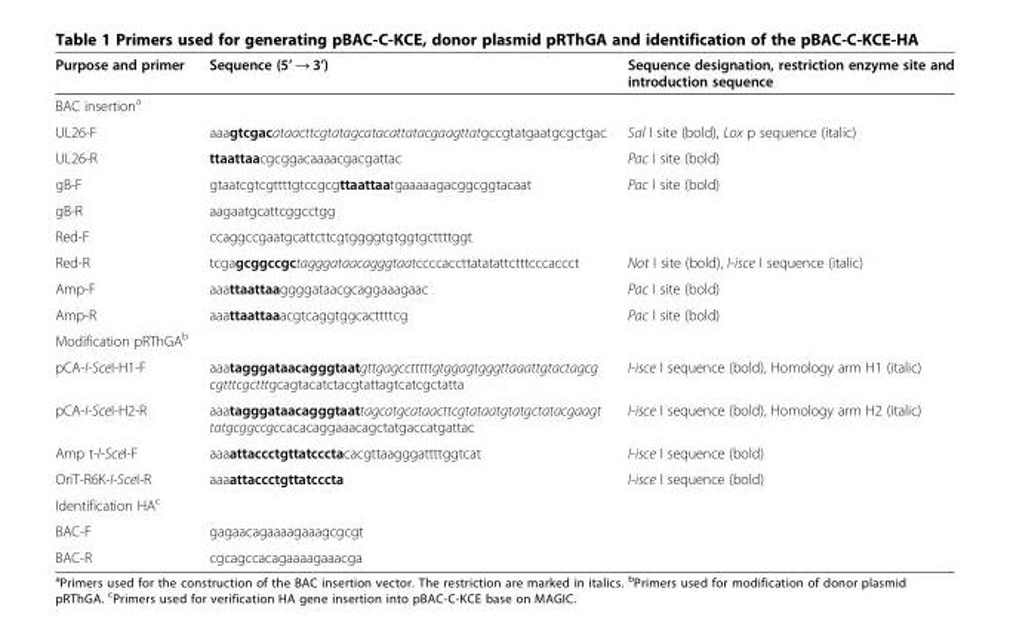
<table><thead><tr><td>Purpose and primer</td><td>Sequence (5’ → 3’)</td><td>Sequence designation, restriction enzyme site and introduction sequence</td></tr></thead><tbody><tr><td colspan="3">BAC insertion<sup>a</sup></td></tr><tr><td>UL26-F</td><td>aaagtcgacataacttcgtatagcatacattatacgaagttatgccgtatgaatgcgctgac</td><td>Sal I site (bold), Lox p sequence (italic)</td></tr><tr><td>UL26-R</td><td>ttaattaacgcggacaaaacgacgattac</td><td>Pac I site (bold)</td></tr><tr><td>gB-F</td><td>gtaatcgtcgttttgtccgcgttaattaatgaaaaagacggcggtacaat</td><td>Pac I site (bold)</td></tr><tr><td>gB-R</td><td>aagaatgcattcggcctgg</td><td></td></tr><tr><td>Red-F</td><td>ccaggccgaatgcattcttcgtggggtgtggtgcttttggt</td><td></td></tr><tr><td>Red-R</td><td>tcgagcggccgctagggataacagggtaatccccaccttatatattctttcccaccct</td><td>Not I site (bold), I-isce I sequence (italic)</td></tr><tr><td>Amp-F</td><td>aaattaattaaggggataacgcaggaaagaac</td><td>Pac I site (bold)</td></tr><tr><td>Amp-R</td><td>aaattaattaaacgtcaggtggcacttttcg</td><td>Pac I site (bold)</td></tr><tr><td colspan="3">Modification pRThGA<sup>b</sup></td></tr><tr><td>pCA-I-SceI-H1-F</td><td>aaatagggataacagggtaatgttgagcctttttgtggagtgggttaaattgtactagcg cgtttcgctttgcagtacatctacgtattagtcatcgctatta</td><td>I-isce I sequence (bold), Homology arm H1 (italic)</td></tr><tr><td>pCA-I-SceI-H2-R</td><td>aaatagggataacagggtaattagcatgcataacttcgtataatgtatgctatacgaagt tatgcggccgccacacaggaaacagctatgaccatgattac</td><td>I-isce I sequence (bold), Homology arm H2 (italic)</td></tr><tr><td>Amp t-I-SceI-F</td><td>aaaattaccctgttatccctacacgttaagggattttggtcat</td><td>I-isce I sequence (bold)</td></tr><tr><td>OriT-R6K-I-SceI-R</td><td>aaaattaccctgttatcccta</td><td>I-isce I sequence (bold)</td></tr><tr><td colspan="3">Identification HA<sup>c</sup></td></tr><tr><td>BAC-F</td><td>gagaacagaaaagaaagcgcgt</td><td></td></tr><tr><td>BAC-R</td><td>cgcagccacagaaaagaaacga</td><td></td></tr></tbody></table>